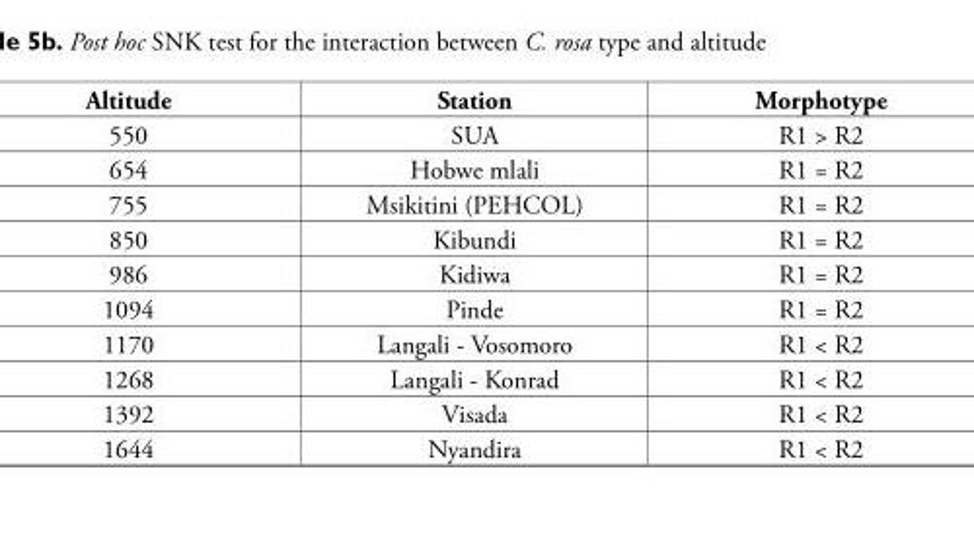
<table><thead><tr><td>Altitude</td><td>Station</td><td>Morphotype</td></tr></thead><tbody><tr><td>550</td><td>SUA</td><td>R1 &gt; R2</td></tr><tr><td>654</td><td>Hobwe mlali</td><td>R1 = R2</td></tr><tr><td>755</td><td>Msikitini (PEHCOL)</td><td>R1 = R2</td></tr><tr><td>850</td><td>Kibundi</td><td>R1 = R2</td></tr><tr><td>986</td><td>Kidiwa</td><td>R1 = R2</td></tr><tr><td>1094</td><td>Pinde</td><td>R1 = R2</td></tr><tr><td>1170</td><td>Langali - Vosomoro</td><td>R1 &lt; R2</td></tr><tr><td>1268</td><td>Langali - Konrad</td><td>R1 &lt; R2</td></tr><tr><td>1392</td><td>Visada</td><td>R1 &lt; R2</td></tr><tr><td>1644</td><td>Nyandira</td><td>R1 &lt; R2</td></tr></tbody></table>